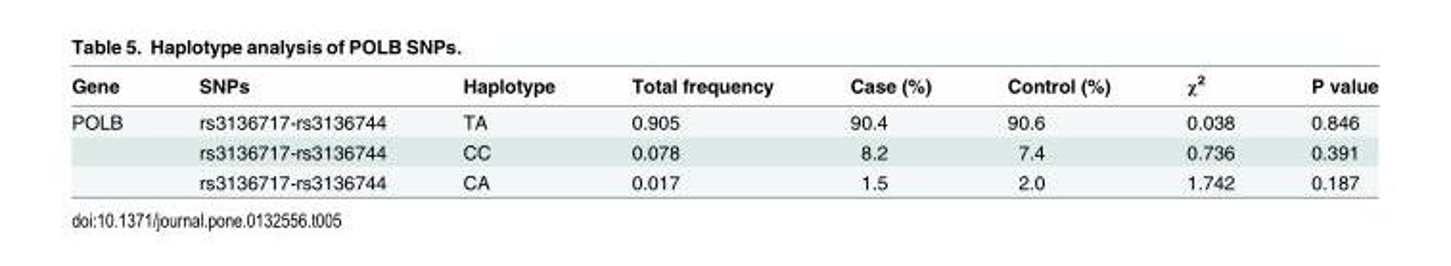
<table><thead><tr><td>Gene</td><td>SNPs</td><td>Haplotype</td><td>Total frequency</td><td>Case (%)</td><td>Control (%)</td><td>χ<sup>2</sup></td><td>P value</td></tr></thead><tbody><tr><td rowspan="3">POLB</td><td>rs3136717-rs3136744</td><td>TA</td><td>0.905</td><td>90.4</td><td>90.6</td><td>0.038</td><td>0.846</td></tr><tr><td>rs3136717-rs3136744</td><td>CC</td><td>0.078</td><td>8.2</td><td>7.4</td><td>0.736</td><td>0.391</td></tr><tr><td>rs3136717-rs3136744</td><td>CA</td><td>0.017</td><td>1.5</td><td>2.0</td><td>1.742</td><td>0.187</td></tr></tbody></table>